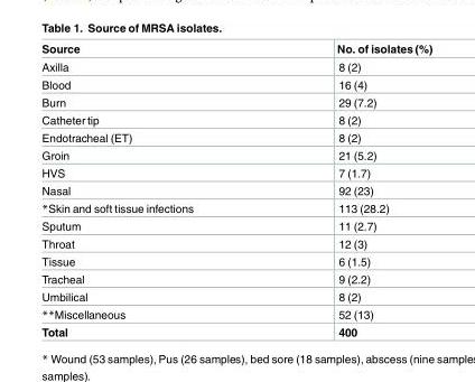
<table><thead><tr><td>Source</td><td>No. of isolates (%)</td></tr></thead><tbody><tr><td>Axilla</td><td>8 (2)</td></tr><tr><td>Blood</td><td>16 (4)</td></tr><tr><td>Burn</td><td>29 (7.2)</td></tr><tr><td>Catheter tip</td><td>8 (2)</td></tr><tr><td>Endotracheal (ET)</td><td>8 (2)</td></tr><tr><td>Groin</td><td>21 (5.2)</td></tr><tr><td>HVS</td><td>7 (1.7)</td></tr><tr><td>Nasal</td><td>92 (23)</td></tr><tr><td>*Skin and soft tissue infections</td><td>113 (28.2)</td></tr><tr><td>Sputum</td><td>11 (2.7)</td></tr><tr><td>Throat</td><td>12 (3)</td></tr><tr><td>Tissue</td><td>6 (1.5)</td></tr><tr><td>Tracheal</td><td>9 (2.2)</td></tr><tr><td>Umbilical</td><td>8 (2)</td></tr><tr><td>**Miscellaneous</td><td>52 (13)</td></tr><tr><td>Total</td><td>400</td></tr></tbody></table>